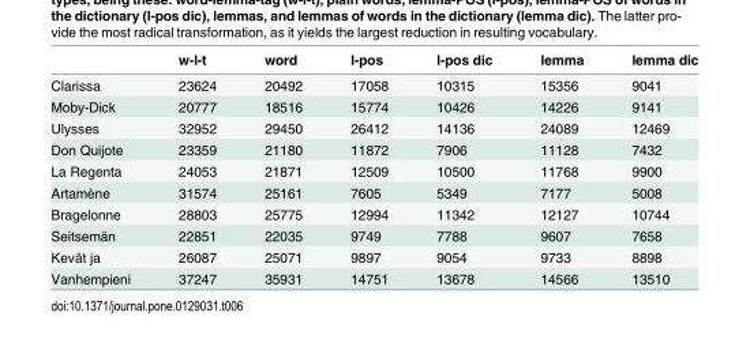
<table><thead><tr><td></td><td>w-l-t</td><td>word</td><td>l-pos</td><td>l-pos dic</td><td>lemma</td><td>lemma dic</td></tr></thead><tbody><tr><td>Clarissa</td><td>23624</td><td>20492</td><td>17058</td><td>10315</td><td>15356</td><td>9041</td></tr><tr><td>Moby-Dick</td><td>20777</td><td>18516</td><td>15774</td><td>10426</td><td>14226</td><td>9141</td></tr><tr><td>Ulysses</td><td>32952</td><td>29450</td><td>26412</td><td>14136</td><td>24089</td><td>12469</td></tr><tr><td>Don Quijote</td><td>23359</td><td>21180</td><td>11872</td><td>7906</td><td>11128</td><td>7432</td></tr><tr><td>La Regenta</td><td>24053</td><td>21871</td><td>12509</td><td>10500</td><td>11768</td><td>9900</td></tr><tr><td>Artamène</td><td>31574</td><td>25161</td><td>7605</td><td>5349</td><td>7177</td><td>5008</td></tr><tr><td>Bragelonne</td><td>28803</td><td>25775</td><td>12994</td><td>11342</td><td>12127</td><td>10744</td></tr><tr><td>Seitsemän</td><td>22851</td><td>22035</td><td>9749</td><td>7788</td><td>9607</td><td>7658</td></tr><tr><td>Kevät ja</td><td>26087</td><td>25071</td><td>9897</td><td>9054</td><td>9733</td><td>8898</td></tr><tr><td>Vanhempieni</td><td>37247</td><td>35931</td><td>14751</td><td>13678</td><td>14566</td><td>13510</td></tr></tbody></table>